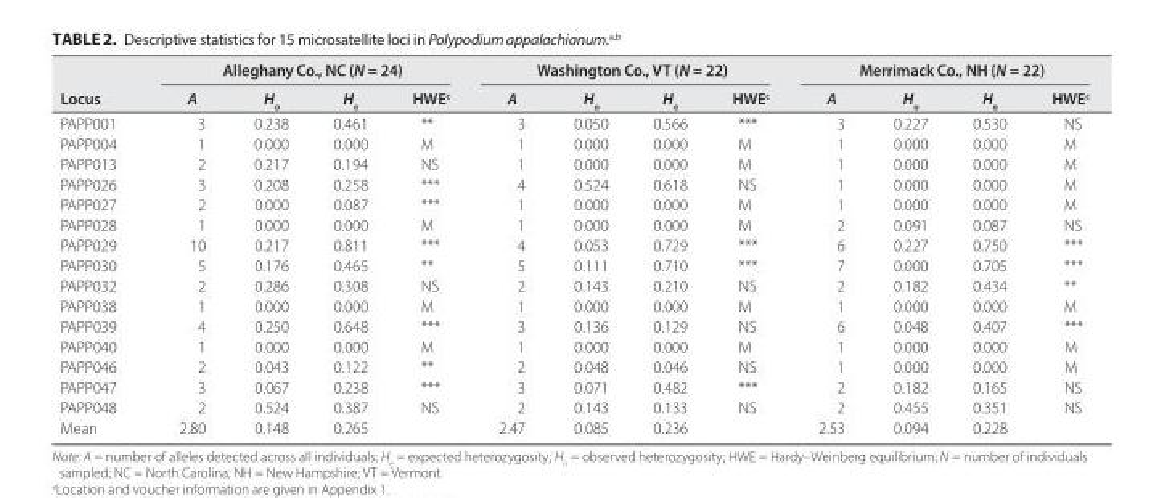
<table><thead><tr><td rowspan="2">Locus</td><td colspan="4">Alleghany Co., NC (N = 24)</td><td colspan="4">Washington Co., VT (N = 22)</td><td colspan="4">Merrimack Co., NH (N = 22)</td></tr><tr><td>A</td><td>H<sub>o</sub></td><td>H<sub>e</sub></td><td>HWE<sup>c</sup></td><td>A</td><td>H<sub>o</sub></td><td>H<sub>e</sub></td><td>HWE<sup>c</sup></td><td>A</td><td>H<sub>o</sub></td><td>H<sub>e</sub></td><td>HWE<sup>c</sup></td></tr></thead><tbody><tr><td>PAPP001</td><td>3</td><td>0.238</td><td>0.461</td><td>**</td><td>3</td><td>0.050</td><td>0.566</td><td>***</td><td>3</td><td>0.227</td><td>0.530</td><td>NS</td></tr><tr><td>PAPP004</td><td>1</td><td>0.000</td><td>0.000</td><td>M</td><td>1</td><td>0.000</td><td>0.000</td><td>M</td><td>1</td><td>0.000</td><td>0.000</td><td>M</td></tr><tr><td>PAPP013</td><td>2</td><td>0.217</td><td>0.194</td><td>NS</td><td>1</td><td>0.000</td><td>0.000</td><td>M</td><td>1</td><td>0.000</td><td>0.000</td><td>M</td></tr><tr><td>PAPP026</td><td>3</td><td>0.208</td><td>0.258</td><td>***</td><td>4</td><td>0.524</td><td>0.618</td><td>NS</td><td>1</td><td>0.000</td><td>0.000</td><td>M</td></tr><tr><td>PAPP027</td><td>2</td><td>0.000</td><td>0.087</td><td>***</td><td>1</td><td>0.000</td><td>0.000</td><td>M</td><td>1</td><td>0.000</td><td>0.000</td><td>M</td></tr><tr><td>PAPP028</td><td>1</td><td>0.000</td><td>0.000</td><td>M</td><td>1</td><td>0.000</td><td>0.000</td><td>M</td><td>2</td><td>0.091</td><td>0.087</td><td>NS</td></tr><tr><td>PAPP029</td><td>10</td><td>0.217</td><td>0.811</td><td>***</td><td>4</td><td>0.053</td><td>0.729</td><td>***</td><td>6</td><td>0.227</td><td>0.750</td><td>***</td></tr><tr><td>PAPP030</td><td>5</td><td>0.176</td><td>0.465</td><td>**</td><td>5</td><td>0.111</td><td>0.710</td><td>***</td><td>7</td><td>0.000</td><td>0.705</td><td>***</td></tr><tr><td>PAPP032</td><td>2</td><td>0.286</td><td>0.308</td><td>NS</td><td>2</td><td>0.143</td><td>0.210</td><td>NS</td><td>2</td><td>0.182</td><td>0.434</td><td>**</td></tr><tr><td>PAPP038</td><td>1</td><td>0.000</td><td>0.000</td><td>M</td><td>1</td><td>0.000</td><td>0.000</td><td>M</td><td>1</td><td>0.000</td><td>0.000</td><td>M</td></tr><tr><td>PAPP039</td><td>4</td><td>0.250</td><td>0.648</td><td>***</td><td>3</td><td>0.136</td><td>0.129</td><td>NS</td><td>6</td><td>0.048</td><td>0.407</td><td>***</td></tr><tr><td>PAPP040</td><td>1</td><td>0.000</td><td>0.000</td><td>M</td><td>1</td><td>0.000</td><td>0.000</td><td>M</td><td>1</td><td>0.000</td><td>0.000</td><td>M</td></tr><tr><td>PAPP046</td><td>2</td><td>0.043</td><td>0.122</td><td>**</td><td>2</td><td>0.048</td><td>0.046</td><td>NS</td><td>1</td><td>0.000</td><td>0.000</td><td>M</td></tr><tr><td>PAPP047</td><td>3</td><td>0.067</td><td>0.238</td><td>***</td><td>3</td><td>0.071</td><td>0.482</td><td>***</td><td>2</td><td>0.182</td><td>0.165</td><td>NS</td></tr><tr><td>PAPP048</td><td>2</td><td>0.524</td><td>0.387</td><td>NS</td><td>2</td><td>0.143</td><td>0.133</td><td>NS</td><td>2</td><td>0.455</td><td>0.351</td><td>NS</td></tr><tr><td>Mean</td><td>2.80</td><td>0.148</td><td>0.265</td><td></td><td>2.47</td><td>0.085</td><td>0.236</td><td></td><td>2.53</td><td>0.094</td><td>0.228</td><td></td></tr></tbody></table>